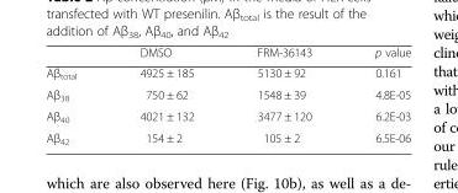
<table><thead><tr><td></td><td>DMSO</td><td>FRM-36143</td><td>p value</td></tr></thead><tbody><tr><td>Aβ<sub>total</sub></td><td>4925 ± 185</td><td>5130 ± 92</td><td>0.161</td></tr><tr><td>Aβ<sub>38</sub></td><td>750 ± 62</td><td>1548 ± 39</td><td>4.8E-05</td></tr><tr><td>Aβ<sub>40</sub></td><td>4021 ± 132</td><td>3477 ± 120</td><td>6.2E-03</td></tr><tr><td>Aβ<sub>42</sub></td><td>154 ± 2</td><td>105 ± 2</td><td>6.5E-06</td></tr></tbody></table>